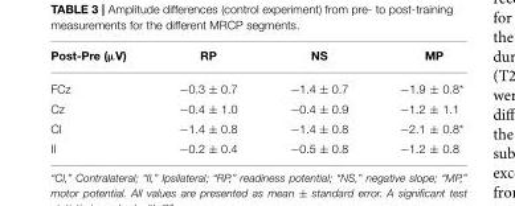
<table><thead><tr><td>Post-Pre (µV)</td><td>RP</td><td>NS</td><td>MP</td></tr></thead><tbody><tr><td>FCz</td><td>−0.3 ± 0.7</td><td>−1.4 ± 0.7</td><td>−1.9 ± 0.8*</td></tr><tr><td>Cz</td><td>−0.4 ± 1.0</td><td>−0.4 ± 0.9</td><td>−1.2 ± 1.1</td></tr><tr><td>Cl</td><td>−1.4 ± 0.8</td><td>−1.4 ± 0.8</td><td>−2.1 ± 0.8*</td></tr><tr><td>Il</td><td>−0.2 ± 0.4</td><td>−0.5 ± 0.8</td><td>−1.2 ± 0.8</td></tr></tbody></table>